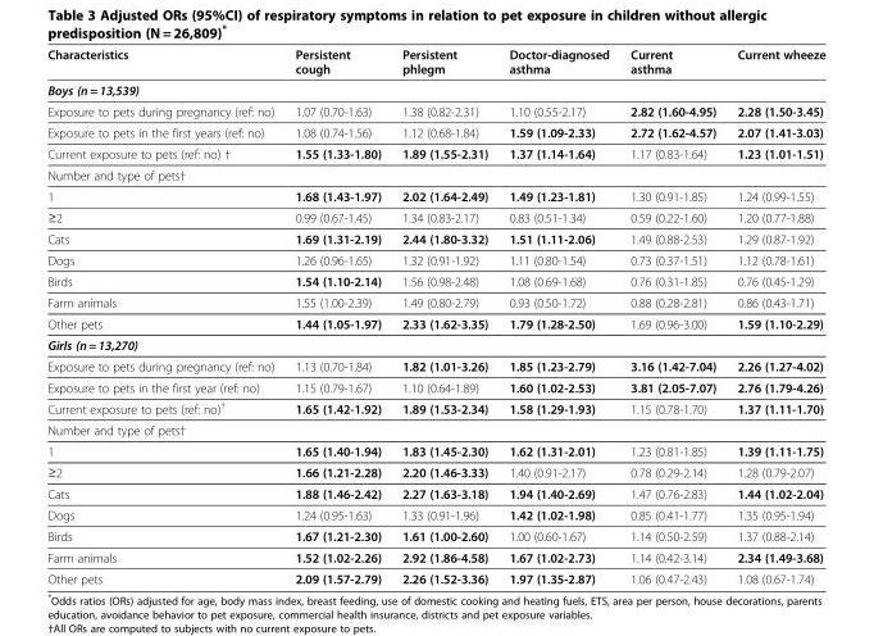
<table><thead><tr><td>Characteristics</td><td>Persistent cough</td><td>Persistent phlegm</td><td>Doctor-diagnosed asthma</td><td>Current asthma</td><td>Current wheeze</td></tr></thead><tbody><tr><td colspan="6">Boys (n = 13,539)</td></tr><tr><td>Exposure to pets during pregnancy (ref: no)</td><td>1.07 (0.70-1.63)</td><td>1.38 (0.82-2.31)</td><td>1.10 (0.55-2.17)</td><td>2.82 (1.60-4.95)</td><td>2.28 (1.50-3.45)</td></tr><tr><td>Exposure to pets in the first years (ref: no)</td><td>1.08 (0.74-1.56)</td><td>1.12 (0.68-1.84)</td><td>1.59 (1.09-2.33)</td><td>2.72 (1.62-4.57)</td><td>2.07 (1.41-3.03)</td></tr><tr><td>Current exposure to pets (ref: no) †</td><td>1.55 (1.33-1.80)</td><td>1.89 (1.55-2.31)</td><td>1.37 (1.14-1.64)</td><td>1.17 (0.83-1.64)</td><td>1.23 (1.01-1.51)</td></tr><tr><td colspan="6">Number and type of pets†</td></tr><tr><td>1</td><td>1.68 (1.43-1.97)</td><td>2.02 (1.64-2.49)</td><td>1.49 (1.23-1.81)</td><td>1.30 (0.91-1.85)</td><td>1.24 (0.99-1.55)</td></tr><tr><td>≥2</td><td>0.99 (0.67-1.45)</td><td>1.34 (0.83-2.17)</td><td>0.83 (0.51-1.34)</td><td>0.59 (0.22-1.60)</td><td>1.20 (0.77-1.88)</td></tr><tr><td>Cats</td><td>1.69 (1.31-2.19)</td><td>2.44 (1.80-3.32)</td><td>1.51 (1.11-2.06)</td><td>1.49 (0.88-2.53)</td><td>1.29 (0.87-1.92)</td></tr><tr><td>Dogs</td><td>1.26 (0.96-1.65)</td><td>1.32 (0.91-1.92)</td><td>1.11 (0.80-1.54)</td><td>0.73 (0.37-1.51)</td><td>1.12 (0.78-1.61)</td></tr><tr><td>Birds</td><td>1.54 (1.10-2.14)</td><td>1.56 (0.98-2.48)</td><td>1.08 (0.69-1.68)</td><td>0.76 (0.31-1.85)</td><td>0.76 (0.45-1.29)</td></tr><tr><td>Farm animals</td><td>1.55 (1.00-2.39)</td><td>1.49 (0.80-2.79)</td><td>0.93 (0.50-1.72)</td><td>0.88 (0.28-2.81)</td><td>0.86 (0.43-1.71)</td></tr><tr><td>Other pets</td><td>1.44 (1.05-1.97)</td><td>2.33 (1.62-3.35)</td><td>1.79 (1.28-2.50)</td><td>1.69 (0.96-3.00)</td><td>1.59 (1.10-2.29)</td></tr><tr><td colspan="6">Girls (n = 13,270)</td></tr><tr><td>Exposure to pets during pregnancy (ref: no)</td><td>1.13 (0.70-1.84)</td><td>1.82 (1.01-3.26)</td><td>1.85 (1.23-2.79)</td><td>3.16 (1.42-7.04)</td><td>2.26 (1.27-4.02)</td></tr><tr><td>Exposure to pets in the first year (ref: no)</td><td>1.15 (0.79-1.67)</td><td>1.10 (0.64-1.89)</td><td>1.60 (1.02-2.53)</td><td>3.81 (2.05-7.07)</td><td>2.76 (1.79-4.26)</td></tr><tr><td>Current exposure to pets (ref: no)<sup>†</sup></td><td>1.65 (1.42-1.92)</td><td>1.89 (1.53-2.34)</td><td>1.58 (1.29-1.93)</td><td>1.15 (0.78-1.70)</td><td>1.37 (1.11-1.70)</td></tr><tr><td colspan="6">Number and type of pets†</td></tr><tr><td>1</td><td>1.65 (1.40-1.94)</td><td>1.83 (1.45-2.30)</td><td>1.62 (1.31-2.01)</td><td>1.23 (0.81-1.85)</td><td>1.39 (1.11-1.75)</td></tr><tr><td>≥2</td><td>1.66 (1.21-2.28)</td><td>2.20 (1.46-3.33)</td><td>1.40 (0.91-2.17)</td><td>0.78 (0.29-2.14)</td><td>1.28 (0.79-2.07)</td></tr><tr><td>Cats</td><td>1.88 (1.46-2.42)</td><td>2.27 (1.63-3.18)</td><td>1.94 (1.40-2.69)</td><td>1.47 (0.76-2.83)</td><td>1.44 (1.02-2.04)</td></tr><tr><td>Dogs</td><td>1.24 (0.95-1.63)</td><td>1.33 (0.91-1.96)</td><td>1.42 (1.02-1.98)</td><td>0.85 (0.41-1.77)</td><td>1.35 (0.95-1.94)</td></tr><tr><td>Birds</td><td>1.67 (1.21-2.30)</td><td>1.61 (1.00-2.60)</td><td>1.00 (0.60-1.67)</td><td>1.14 (0.50-2.59)</td><td>1.37 (0.88-2.14)</td></tr><tr><td>Farm animals</td><td>1.52 (1.02-2.26)</td><td>2.92 (1.86-4.58)</td><td>1.67 (1.02-2.73)</td><td>1.14 (0.42-3.14)</td><td>2.34 (1.49-3.68)</td></tr><tr><td>Other pets</td><td>2.09 (1.57-2.79)</td><td>2.26 (1.52-3.36)</td><td>1.97 (1.35-2.87)</td><td>1.06 (0.47-2.43)</td><td>1.08 (0.67-1.74)</td></tr></tbody></table>